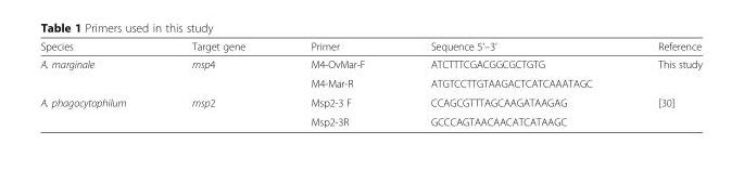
<table><thead><tr><td>Species</td><td>Target gene</td><td>Primer</td><td>Sequence 5’–3’</td><td>Reference</td></tr></thead><tbody><tr><td rowspan="2">A. marginale</td><td rowspan="2">msp4</td><td>M4-OvMar-F</td><td>ATCTTTCGACGGCGCTGTG</td><td rowspan="2">This study</td></tr><tr><td>M4-Mar-R</td><td>ATGTCCTTGTAAGACTCATCAAATAGC</td></tr><tr><td rowspan="2">A. phagocytophilum</td><td rowspan="2">msp2</td><td>Msp2-3 F</td><td>CCAGCGTTTAGCAAGATAAGAG</td><td rowspan="2">[30]</td></tr><tr><td>Msp2-3R</td><td>GCCCAGTAACAACATCATAAGC</td></tr></tbody></table>